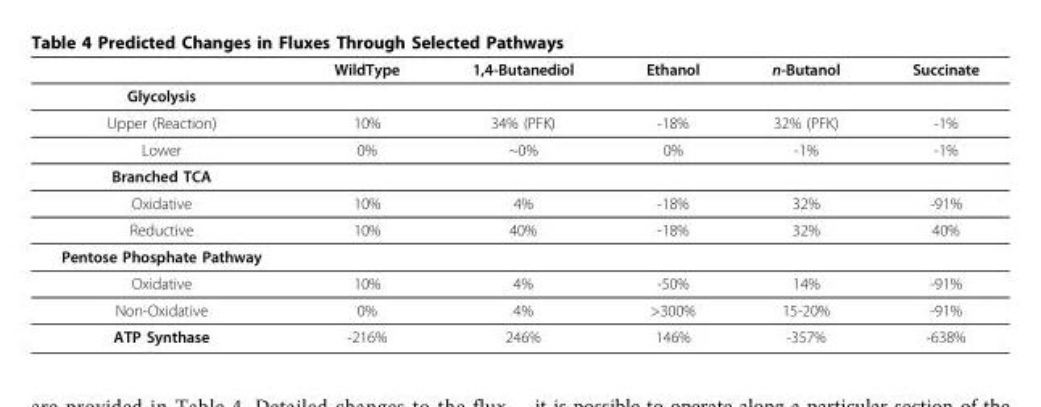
<table><thead><tr><td></td><td>WildType</td><td>1,4-Butanediol</td><td>Ethanol</td><td>n-Butanol</td><td>Succinate</td></tr></thead><tbody><tr><td colspan="6">Glycolysis</td></tr><tr><td>Upper (Reaction)</td><td>10%</td><td>34% (PFK)</td><td>-18%</td><td>32% (PFK)</td><td>-1%</td></tr><tr><td>Lower</td><td>0%</td><td>~0%</td><td>0%</td><td>-1%</td><td>-1%</td></tr><tr><td colspan="6">Branched TCA</td></tr><tr><td>Oxidative</td><td>10%</td><td>4%</td><td>-18%</td><td>32%</td><td>-91%</td></tr><tr><td>Reductive</td><td>10%</td><td>40%</td><td>-18%</td><td>32%</td><td>40%</td></tr><tr><td colspan="6">Pentose Phosphate Pathway</td></tr><tr><td>Oxidative</td><td>10%</td><td>4%</td><td>-50%</td><td>14%</td><td>-91%</td></tr><tr><td>Non-Oxidative</td><td>0%</td><td>4%</td><td>&gt;300%</td><td>15-20%</td><td>-91%</td></tr><tr><td>ATP Synthase</td><td>-216%</td><td>246%</td><td>146%</td><td>-357%</td><td>-638%</td></tr></tbody></table>